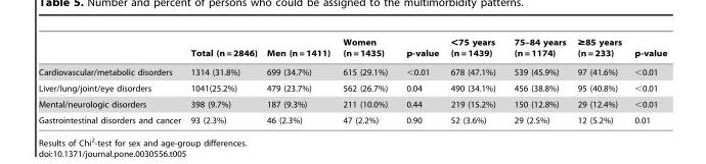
<table><thead><tr><td></td><td>Total (n = 2846)</td><td>Men (n = 1411)</td><td>Women (n = 1435)</td><td>p-value</td><td>&lt;75 years (n = 1439)</td><td>75–84 years (n = 1174)</td><td>≥85 years (n = 233)</td><td>p-value</td></tr></thead><tbody><tr><td>Cardiovascular/metabolic disorders</td><td>1314 (31.8%)</td><td>699 (34.7%)</td><td>615 (29.1%)</td><td>&lt;0.01</td><td>678 (47.1%)</td><td>539 (45.9%)</td><td>97 (41.6%)</td><td>&lt;0.01</td></tr><tr><td>Liver/lung/joint/eye disorders</td><td>1041(25.2%)</td><td>479 (23.7%)</td><td>562 (26.7%)</td><td>0.04</td><td>490 (34.1%)</td><td>456 (38.8%)</td><td>95 (40.8%)</td><td>&lt;0.01</td></tr><tr><td>Mental/neurologic disorders</td><td>398 (9.7%)</td><td>187 (9.3%)</td><td>211 (10.0%)</td><td>0.44</td><td>219 (15.2%)</td><td>150 (12.8%)</td><td>29 (12.4%)</td><td>&lt;0.01</td></tr><tr><td>Gastrointestinal disorders and cancer</td><td>93 (2.3%)</td><td>46 (2.3%)</td><td>47 (2.2%)</td><td>0.90</td><td>52 (3.6%)</td><td>29 (2.5%)</td><td>12 (5.2%)</td><td>0.01</td></tr></tbody></table>